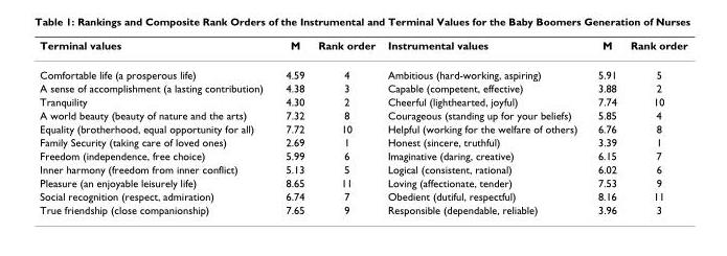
<table><thead><tr><td>Terminal values</td><td>M</td><td>Rank order</td><td>Instrumental values</td><td>M</td><td>Rank order</td></tr></thead><tbody><tr><td>Comfortable life (a prosperous life)</td><td>4.59</td><td>4</td><td>Ambitious (hard-working, aspiring)</td><td>5.91</td><td>5</td></tr><tr><td>A sense of accomplishment (a lasting contribution)</td><td>4.38</td><td>3</td><td>Capable (competent, effective)</td><td>3.88</td><td>2</td></tr><tr><td>Tranquility</td><td>4.30</td><td>2</td><td>Cheerful (lighthearted, joyful)</td><td>7.74</td><td>10</td></tr><tr><td>A world beauty (beauty of nature and the arts)</td><td>7.32</td><td>8</td><td>Courageous (standing up for your beliefs)</td><td>5.85</td><td>4</td></tr><tr><td>Equality (brotherhood, equal opportunity for all)</td><td>7.72</td><td>10</td><td>Helpful (working for the welfare of others)</td><td>6.76</td><td>8</td></tr><tr><td>Family Security (taking care of loved ones)</td><td>2.69</td><td>1</td><td>Honest (sincere, truthful)</td><td>3.39</td><td>1</td></tr><tr><td>Freedom (independence, free choice)</td><td>5.99</td><td>6</td><td>Imaginative (daring, creative)</td><td>6.15</td><td>7</td></tr><tr><td>Inner harmony (freedom from inner conflict)</td><td>5.13</td><td>5</td><td>Logical (consistent, rational)</td><td>6.02</td><td>6</td></tr><tr><td>Pleasure (an enjoyable leisurely life)</td><td>8.65</td><td>11</td><td>Loving (affectionate, tender)</td><td>7.53</td><td>9</td></tr><tr><td>Social recognition (respect, admiration)</td><td>6.74</td><td>7</td><td>Obedient (dutiful, respectful)</td><td>8.16</td><td>11</td></tr><tr><td>True friendship (close companionship)</td><td>7.65</td><td>9</td><td>Responsible (dependable, reliable)</td><td>3.96</td><td>3</td></tr></tbody></table>